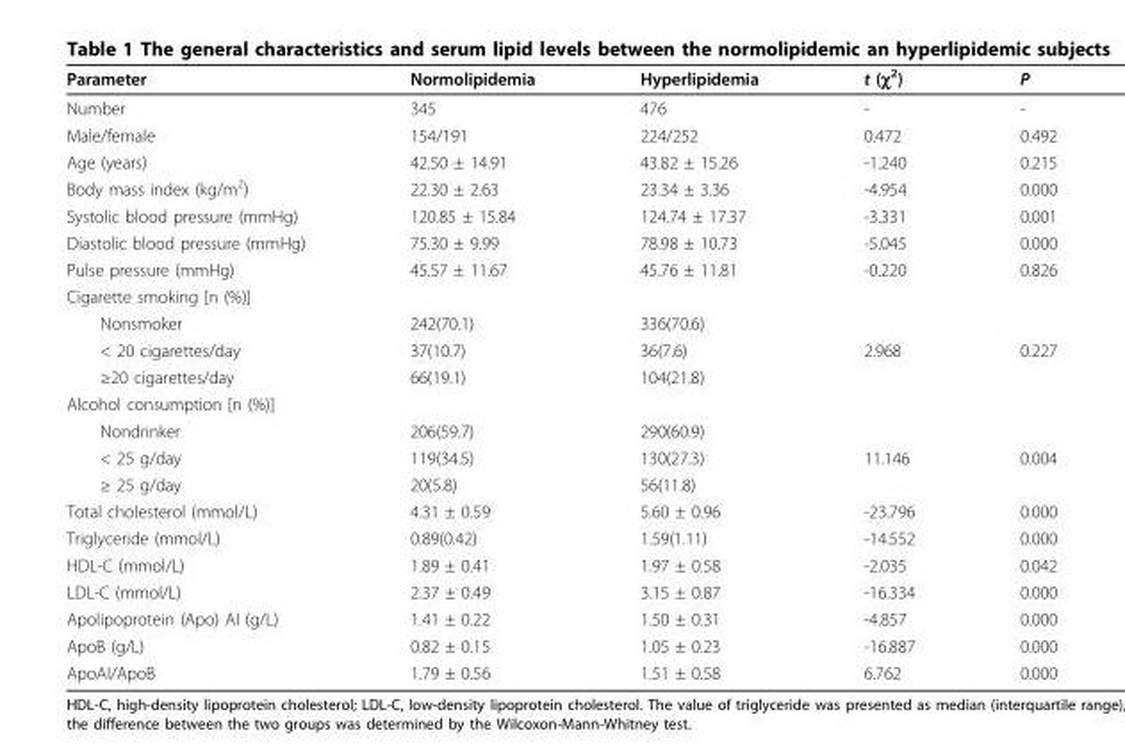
<table><thead><tr><td>Parameter</td><td>Normolipidemia</td><td>Hyperlipidemia</td><td>t (χ<sup>2</sup>)</td><td>P</td></tr></thead><tbody><tr><td>Number</td><td>345</td><td>476</td><td>-</td><td>-</td></tr><tr><td>Male/female</td><td>154/191</td><td>224/252</td><td>0.472</td><td>0.492</td></tr><tr><td>Age (years)</td><td>42.50 ± 14.91</td><td>43.82 ± 15.26</td><td>-1.240</td><td>0.215</td></tr><tr><td>Body mass index (kg/m<sup>2</sup>)</td><td>22.30 ± 2.63</td><td>23.34 ± 3.36</td><td>-4.954</td><td>0.000</td></tr><tr><td>Systolic blood pressure (mmHg)</td><td>120.85 ± 15.84</td><td>124.74 ± 17.37</td><td>-3.331</td><td>0.001</td></tr><tr><td>Diastolic blood pressure (mmHg)</td><td>75.30 ± 9.99</td><td>78.98 ± 10.73</td><td>-5.045</td><td>0.000</td></tr><tr><td>Pulse pressure (mmHg)</td><td>45.57 ± 11.67</td><td>45.76 ± 11.81</td><td>-0.220</td><td>0.826</td></tr><tr><td colspan="5">Cigarette smoking [n (%)]</td></tr><tr><td>Nonsmoker</td><td>242(70.1)</td><td>336(70.6)</td><td></td><td></td></tr><tr><td>&lt; 20 cigarettes/day</td><td>37(10.7)</td><td>36(7.6)</td><td>2.968</td><td>0.227</td></tr><tr><td>≥20 cigarettes/day</td><td>66(19.1)</td><td>104(21.8)</td><td></td><td></td></tr><tr><td colspan="5">Alcohol consumption [n (%)]</td></tr><tr><td>Nondrinker</td><td>206(59.7)</td><td>290(60.9)</td><td></td><td></td></tr><tr><td>&lt; 25 g/day</td><td>119(34.5)</td><td>130(27.3)</td><td>11.146</td><td>0.004</td></tr><tr><td>≥ 25 g/day</td><td>20(5.8)</td><td>56(11.8)</td><td></td><td></td></tr><tr><td>Total cholesterol (mmol/L)</td><td>4.31 ± 0.59</td><td>5.60 ± 0.96</td><td>-23.796</td><td>0.000</td></tr><tr><td>Triglyceride (mmol/L)</td><td>0.89(0.42)</td><td>1.59(1.11)</td><td>-14.552</td><td>0.000</td></tr><tr><td>HDL-C (mmol/L)</td><td>1.89 ± 0.41</td><td>1.97 ± 0.58</td><td>-2.035</td><td>0.042</td></tr><tr><td>LDL-C (mmol/L)</td><td>2.37 ± 0.49</td><td>3.15 ± 0.87</td><td>-16.334</td><td>0.000</td></tr><tr><td>Apolipoprotein (Apo) AI (g/L)</td><td>1.41 ± 0.22</td><td>1.50 ± 0.31</td><td>-4.857</td><td>0.000</td></tr><tr><td>ApoB (g/L)</td><td>0.82 ± 0.15</td><td>1.05 ± 0.23</td><td>-16.887</td><td>0.000</td></tr><tr><td>ApoAI/ApoB</td><td>1.79 ± 0.56</td><td>1.51 ± 0.58</td><td>6.762</td><td>0.000</td></tr></tbody></table>